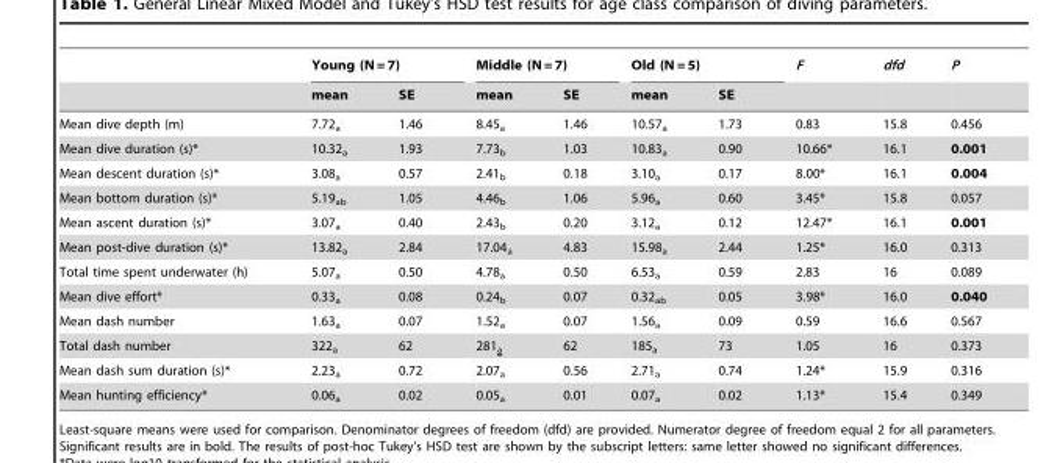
<table><thead><tr><td rowspan="2"></td><td colspan="2">Young (N = 7)</td><td colspan="2">Middle (N = 7)</td><td colspan="2">Old (N = 5)</td><td rowspan="2">F</td><td rowspan="2">dfd</td><td rowspan="2">P</td></tr><tr><td>mean</td><td>SE</td><td>mean</td><td>SE</td><td>mean</td><td>SE</td></tr></thead><tbody><tr><td>Mean dive depth (m)</td><td>7.72<sub>a</sub></td><td>1.46</td><td>8.45<sub>a</sub></td><td>1.46</td><td>10.57<sub>a</sub></td><td>1.73</td><td>0.83</td><td>15.8</td><td>0.456</td></tr><tr><td>Mean dive duration (s)*</td><td>10.32<sub>a</sub></td><td>1.93</td><td>7.73<sub>b</sub></td><td>1.03</td><td>10.83<sub>a</sub></td><td>0.90</td><td>10.66*</td><td>16.1</td><td>0.001</td></tr><tr><td>Mean descent duration (s)*</td><td>3.08<sub>a</sub></td><td>0.57</td><td>2.41<sub>b</sub></td><td>0.18</td><td>3.10<sub>a</sub></td><td>0.17</td><td>8.00*</td><td>16.1</td><td>0.004</td></tr><tr><td>Mean bottom duration (s)*</td><td>5.19<sub>ab</sub></td><td>1.05</td><td>4.46<sub>b</sub></td><td>1.06</td><td>5.96<sub>a</sub></td><td>0.60</td><td>3.45*</td><td>15.8</td><td>0.057</td></tr><tr><td>Mean ascent duration (s)*</td><td>3.07<sub>a</sub></td><td>0.40</td><td>2.43<sub>b</sub></td><td>0.20</td><td>3.12<sub>a</sub></td><td>0.12</td><td>12.47*</td><td>16.1</td><td>0.001</td></tr><tr><td>Mean post-dive duration (s)*</td><td>13.82<sub>a</sub></td><td>2.84</td><td>17.04<sub>a</sub></td><td>4.83</td><td>15.98<sub>a</sub></td><td>2.44</td><td>1.25*</td><td>16.0</td><td>0.313</td></tr><tr><td>Total time spent underwater (h)</td><td>5.07<sub>a</sub></td><td>0.50</td><td>4.78<sub>a</sub></td><td>0.50</td><td>6.53<sub>a</sub></td><td>0.59</td><td>2.83</td><td>16</td><td>0.089</td></tr><tr><td>Mean dive effort*</td><td>0.33<sub>a</sub></td><td>0.08</td><td>0.24<sub>b</sub></td><td>0.07</td><td>0.32<sub>ab</sub></td><td>0.05</td><td>3.98*</td><td>16.0</td><td>0.040</td></tr><tr><td>Mean dash number</td><td>1.63<sub>a</sub></td><td>0.07</td><td>1.52<sub>a</sub></td><td>0.07</td><td>1.56<sub>a</sub></td><td>0.09</td><td>0.59</td><td>16.6</td><td>0.567</td></tr><tr><td>Total dash number</td><td>322<sub>a</sub></td><td>62</td><td>281<sub>a</sub></td><td>62</td><td>185<sub>a</sub></td><td>73</td><td>1.05</td><td>16</td><td>0.373</td></tr><tr><td>Mean dash sum duration (s)*</td><td>2.23<sub>a</sub></td><td>0.72</td><td>2.07<sub>a</sub></td><td>0.56</td><td>2.71<sub>a</sub></td><td>0.74</td><td>1.24*</td><td>15.9</td><td>0.316</td></tr><tr><td>Mean hunting efficiency*</td><td>0.06<sub>a</sub></td><td>0.02</td><td>0.05<sub>a</sub></td><td>0.01</td><td>0.07<sub>a</sub></td><td>0.02</td><td>1.13*</td><td>15.4</td><td>0.349</td></tr></tbody></table>